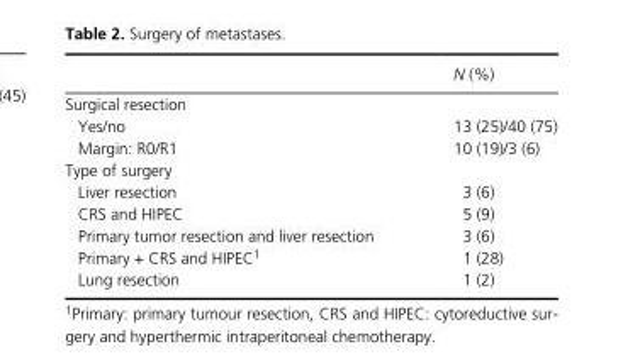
<table><thead><tr><td></td><td>N (%)</td></tr></thead><tbody><tr><td colspan="2">Surgical resection</td></tr><tr><td>Yes/no</td><td>13 (25)/40 (75)</td></tr><tr><td>Margin: R0/R1</td><td>10 (19)/3 (6)</td></tr><tr><td colspan="2">Type of surgery</td></tr><tr><td>Liver resection</td><td>3 (6)</td></tr><tr><td>CRS and HIPEC</td><td>5 (9)</td></tr><tr><td>Primary tumor resection and liver resection</td><td>3 (6)</td></tr><tr><td>Primary + CRS and HIPEC<sup>1</sup></td><td>1 (28)</td></tr><tr><td>Lung resection</td><td>1 (2)</td></tr></tbody></table>